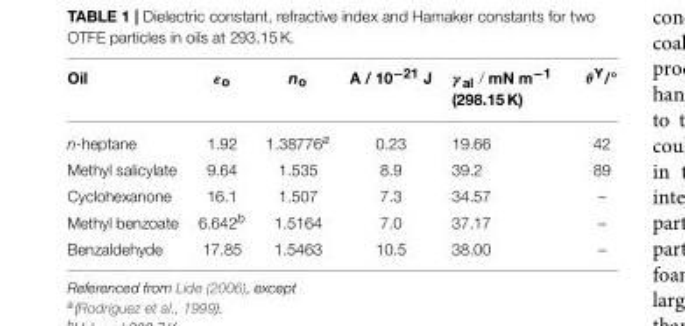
<table><thead><tr><td>Oil</td><td>ε<sub>o</sub></td><td>n<sub>o</sub></td><td>A / 10<sup>−21</sup> J</td><td>γ <sub>al</sub> / mN m<sup>−1</sup> (298.15 K)</td><td>θY/◦</td></tr></thead><tbody><tr><td>n-heptane</td><td>1.92</td><td>1.38776a</td><td>0.23</td><td>19.66</td><td>42</td></tr><tr><td>Methyl salicylate</td><td>9.64</td><td>1.535</td><td>8.9</td><td>39.2</td><td>89</td></tr><tr><td>Cyclohexanone</td><td>16.1</td><td>1.507</td><td>7.3</td><td>34.57</td><td>–</td></tr><tr><td>Methyl benzoate</td><td>6.642b</td><td>1.5164</td><td>7.0</td><td>37.17</td><td>–</td></tr><tr><td>Benzaldehyde</td><td>17.85</td><td>1.5463</td><td>10.5</td><td>38.00</td><td>–</td></tr></tbody></table>